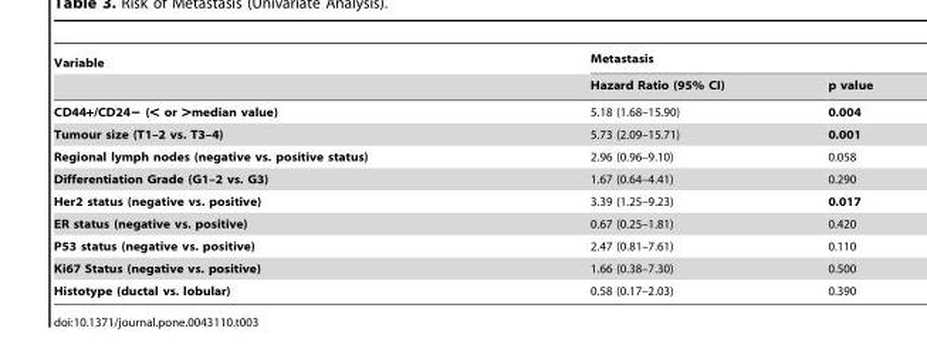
<table><thead><tr><td rowspan="2">Variable</td><td colspan="2">Metastasis</td></tr><tr><td>Hazard Ratio (95% CI)</td><td>p value</td></tr></thead><tbody><tr><td>CD44+/CD24− (&lt; or &gt;median value)</td><td>5.18 (1.68–15.90)</td><td>0.004</td></tr><tr><td>Tumour size (T1–2 vs. T3–4)</td><td>5.73 (2.09–15.71)</td><td>0.001</td></tr><tr><td>Regional lymph nodes (negative vs. positive status)</td><td>2.96 (0.96–9.10)</td><td>0.058</td></tr><tr><td>Differentiation Grade (G1–2 vs. G3)</td><td>1.67 (0.64–4.41)</td><td>0.290</td></tr><tr><td>Her2 status (negative vs. positive)</td><td>3.39 (1.25–9.23)</td><td>0.017</td></tr><tr><td>ER status (negative vs. positive)</td><td>0.67 (0.25–1.81)</td><td>0.420</td></tr><tr><td>P53 status (negative vs. positive)</td><td>2.47 (0.81–7.61)</td><td>0.110</td></tr><tr><td>Ki67 Status (negative vs. positive)</td><td>1.66 (0.38–7.30)</td><td>0.500</td></tr><tr><td>Histotype (ductal vs. lobular)</td><td>0.58 (0.17–2.03)</td><td>0.390</td></tr></tbody></table>